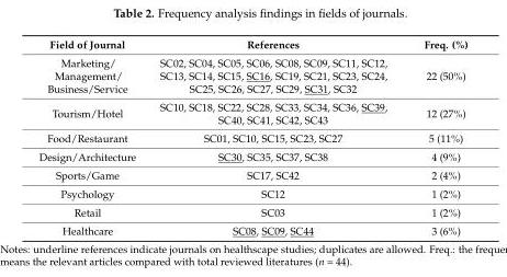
<table><thead><tr><td>Field of Journal</td><td>References</td><td>Freq. (%)</td></tr></thead><tbody><tr><td>Marketing/ Management/ Business/Service</td><td>SC02, SC04, SC05, SC06, SC08, SC09, SC11, SC12, SC13, SC14, SC15, SC16, SC19, SC21, SC23, SC24, SC25, SC26, SC27, SC29, SC31, SC32</td><td>22 (50%)</td></tr><tr><td>Tourism/Hotel</td><td>SC10, SC18, SC22, SC28, SC33, SC34, SC36, SC39, SC40, SC41, SC42, SC43</td><td>12 (27%)</td></tr><tr><td>Food/Restaurant</td><td>SC01, SC10, SC15, SC23, SC27</td><td>5 (11%)</td></tr><tr><td>Design/Architecture</td><td>SC30, SC35, SC37, SC38</td><td>4 (9%)</td></tr><tr><td>Sports/Game</td><td>SC17, SC42</td><td>2 (4%)</td></tr><tr><td>Psychology</td><td>SC12</td><td>1 (2%)</td></tr><tr><td>Retail</td><td>SC03</td><td>1 (2%)</td></tr><tr><td>Healthcare</td><td>SC08, SC09, SC44</td><td>3 (6%)</td></tr></tbody></table>